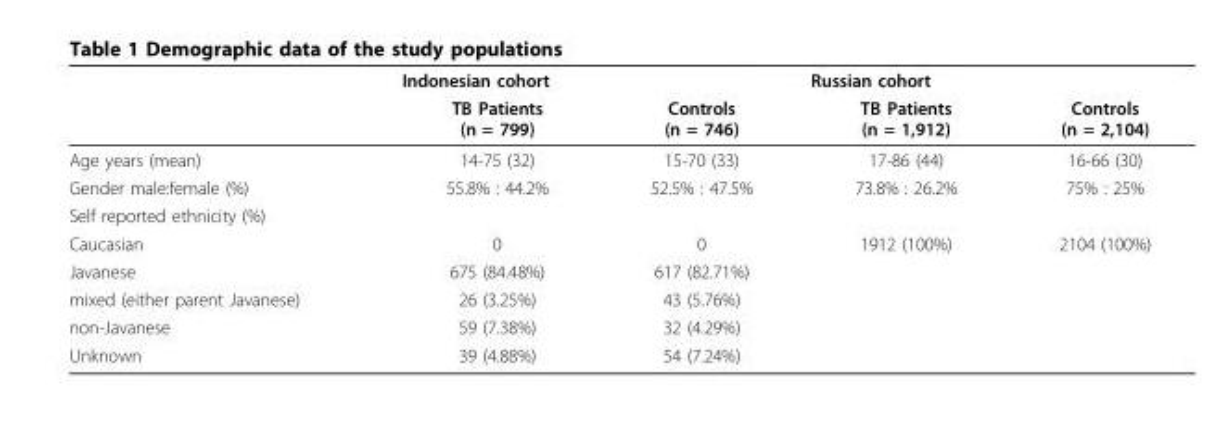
<table><thead><tr><td rowspan="2"></td><td colspan="2">Indonesian cohort</td><td colspan="2">Russian cohort</td></tr><tr><td>TB Patients (n = 799)</td><td>Controls (n = 746)</td><td>TB Patients (n = 1,912)</td><td>Controls (n = 2,104)</td></tr></thead><tbody><tr><td>Age years (mean)</td><td>14-75 (32)</td><td>15-70 (33)</td><td>17-86 (44)</td><td>16-66 (30)</td></tr><tr><td>Gender male:female (%)</td><td>55.8% : 44.2%</td><td>52.5% : 47.5%</td><td>73.8% : 26.2%</td><td>75% : 25%</td></tr><tr><td colspan="5">Self reported ethnicity (%)</td></tr><tr><td>Caucasian</td><td>0</td><td>0</td><td>1912 (100%)</td><td>2104 (100%)</td></tr><tr><td>Javanese</td><td>675 (84.48%)</td><td>617 (82.71%)</td><td></td><td></td></tr><tr><td>mixed (either parent Javanese)</td><td>26 (3.25%)</td><td>43 (5.76%)</td><td></td><td></td></tr><tr><td>non-Javanese</td><td>59 (7.38%)</td><td>32 (4.29%)</td><td></td><td></td></tr><tr><td>Unknown</td><td>39 (4.88%)</td><td>54 (7.24%)</td><td></td><td></td></tr></tbody></table>